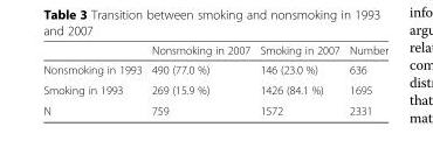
<table><thead><tr><td></td><td>Nonsmoking in 2007</td><td>Smoking in 2007</td><td>Number</td></tr></thead><tbody><tr><td>Nonsmoking in 1993</td><td>490 (77.0 %)</td><td>146 (23.0 %)</td><td>636</td></tr><tr><td>Smoking in 1993</td><td>269 (15.9 %)</td><td>1426 (84.1 %)</td><td>1695</td></tr><tr><td>N</td><td>759</td><td>1572</td><td>2331</td></tr></tbody></table>